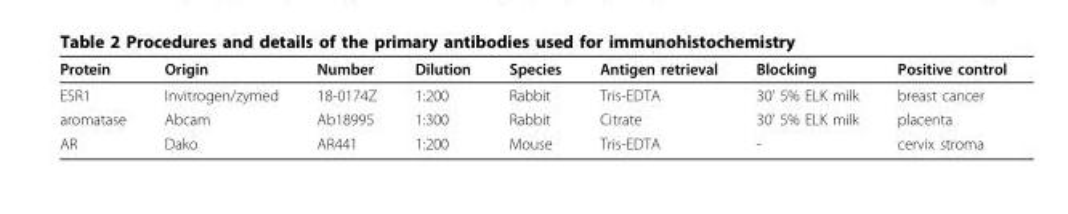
<table><thead><tr><td>Protein</td><td>Origin</td><td>Number</td><td>Dilution</td><td>Species</td><td>Antigen retrieval</td><td>Blocking</td><td>Positive control</td></tr></thead><tbody><tr><td>ESR1</td><td>Invitrogen/zymed</td><td>18-0174Z</td><td>1:200</td><td>Rabbit</td><td>Tris-EDTA</td><td>30’ 5% ELK milk</td><td>breast cancer</td></tr><tr><td>aromatase</td><td>Abcam</td><td>Ab18995</td><td>1:300</td><td>Rabbit</td><td>Citrate</td><td>30’ 5% ELK milk</td><td>placenta</td></tr><tr><td>AR</td><td>Dako</td><td>AR441</td><td>1:200</td><td>Mouse</td><td>Tris-EDTA</td><td>-</td><td>cervix stroma</td></tr></tbody></table>